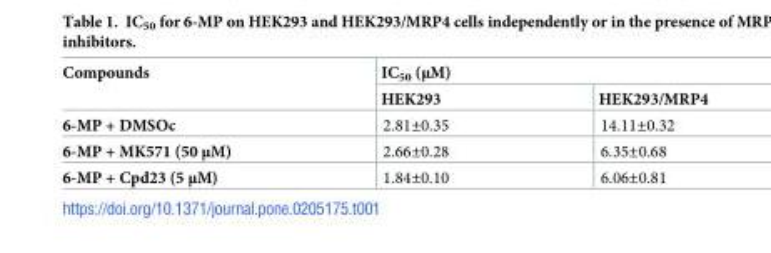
<table><thead><tr><td rowspan="2">Compounds</td><td colspan="2">IC<sub>50</sub> (μM)</td></tr><tr><td>HEK293</td><td>HEK293/MRP4</td></tr></thead><tbody><tr><td>6-MP + DMSOc</td><td>2.81±0.35</td><td>14.11±0.32</td></tr><tr><td>6-MP + MK571 (50 μM)</td><td>2.66±0.28</td><td>6.35±0.68</td></tr><tr><td>6-MP + Cpd23 (5 μM)</td><td>1.84±0.10</td><td>6.06±0.81</td></tr></tbody></table>